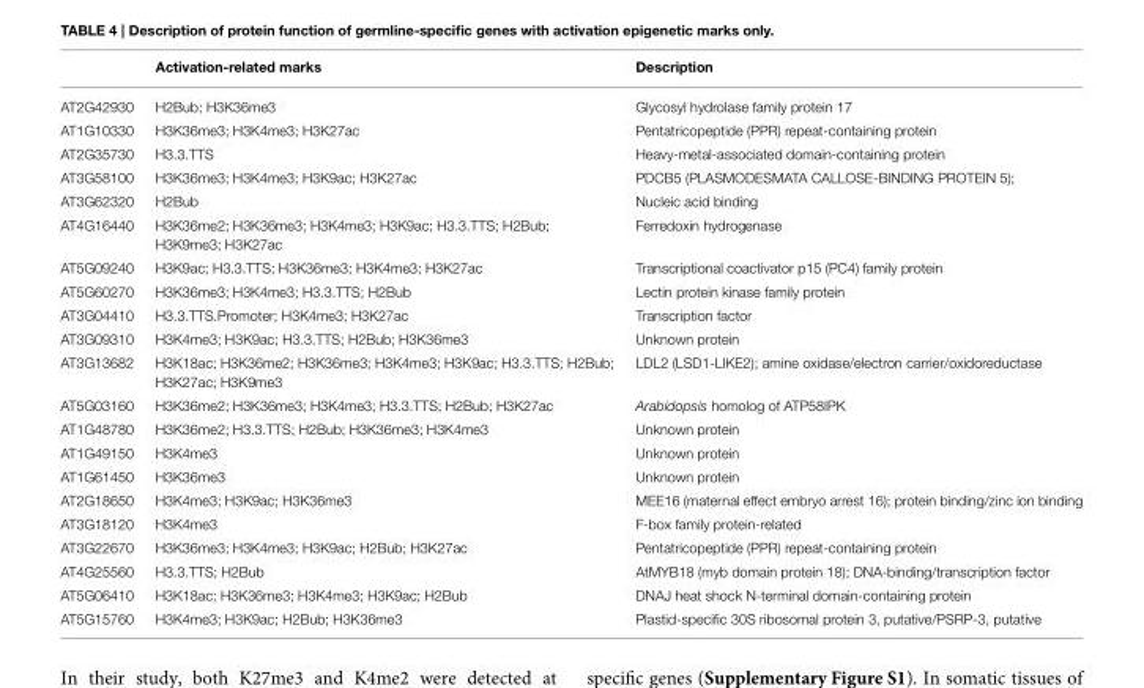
<table><thead><tr><td></td><td>Activation-related marks</td><td>Description</td></tr></thead><tbody><tr><td>AT2G42930</td><td>H2Bub; H3K36me3</td><td>Glycosyl hydrolase family protein 17</td></tr><tr><td>AT1G10330</td><td>H3K36me3; H3K4me3; H3K27ac</td><td>Pentatricopeptide (PPR) repeat-containing protein</td></tr><tr><td>AT2G35730</td><td>H3.3.TTS</td><td>Heavy-metal-associated domain-containing protein</td></tr><tr><td>AT3G58100</td><td>H3K36me3; H3K4me3; H3K9ac; H3K27ac</td><td>PDCB5 (PLASMODESMATA CALLOSE-BINDING PROTEIN 5);</td></tr><tr><td>AT3G62320</td><td>H2Bub</td><td>Nucleic acid binding</td></tr><tr><td>AT4G16440</td><td>H3K36me2; H3K36me3; H3K4me3; H3K9ac; H3.3.TTS; H2Bub; H3K9me3; H3K27ac</td><td>Ferredoxin hydrogenase</td></tr><tr><td>AT5G09240</td><td>H3K9ac; H3.3.TTS; H3K36me3; H3K4me3; H3K27ac</td><td>Transcriptional coactivator p15 (PC4) family protein</td></tr><tr><td>AT5G60270</td><td>H3K36me3; H3K4me3; H3.3.TTS; H2Bub</td><td>Lectin protein kinase family protein</td></tr><tr><td>AT3G04410</td><td>H3.3.TTS.Promoter; H3K4me3; H3K27ac</td><td>Transcription factor</td></tr><tr><td>AT3G09310</td><td>H3K4me3; H3K9ac; H3.3.TTS; H2Bub; H3K36me3</td><td>Unknown protein</td></tr><tr><td>AT3G13682</td><td>H3K18ac; H3K36me2; H3K36me3; H3K4me3; H3K9ac; H3.3.TTS; H2Bub; H3K27ac; H3K9me3</td><td>LDL2 (LSD1-LIKE2); amine oxidase/electron carrier/oxidoreductase</td></tr><tr><td>AT5G03160</td><td>H3K36me2; H3K36me3; H3K4me3; H3.3.TTS; H2Bub; H3K27ac</td><td>Arabidopsis homolog of ATP58IPK</td></tr><tr><td>AT1G48780</td><td>H3K36me2; H3.3.TTS; H2Bub; H3K36me3; H3K4me3</td><td>Unknown protein</td></tr><tr><td>AT1G49150</td><td>H3K4me3</td><td>Unknown protein</td></tr><tr><td>AT1G61450</td><td>H3K36me3</td><td>Unknown protein</td></tr><tr><td>AT2G18650</td><td>H3K4me3; H3K9ac; H3K36me3</td><td>MEE16 (maternal effect embryo arrest 16); protein binding/zinc ion binding</td></tr><tr><td>AT3G18120</td><td>H3K4me3</td><td>F-box family protein-related</td></tr><tr><td>AT3G22670</td><td>H3K36me3; H3K4me3; H3K9ac; H2Bub; H3K27ac</td><td>Pentatricopeptide (PPR) repeat-containing protein</td></tr><tr><td>AT4G25560</td><td>H3.3.TTS; H2Bub</td><td>AtMYB18 (myb domain protein 18); DNA-binding/transcription factor</td></tr><tr><td>AT5G06410</td><td>H3K18ac; H3K36me3; H3K4me3; H3K9ac; H2Bub</td><td>DNAJ heat shock N-terminal domain-containing protein</td></tr><tr><td>AT5G15760</td><td>H3K4me3; H3K9ac; H2Bub; H3K36me3</td><td>Plastid-specific 30S ribosomal protein 3, putative/PSRP-3, putative</td></tr></tbody></table>